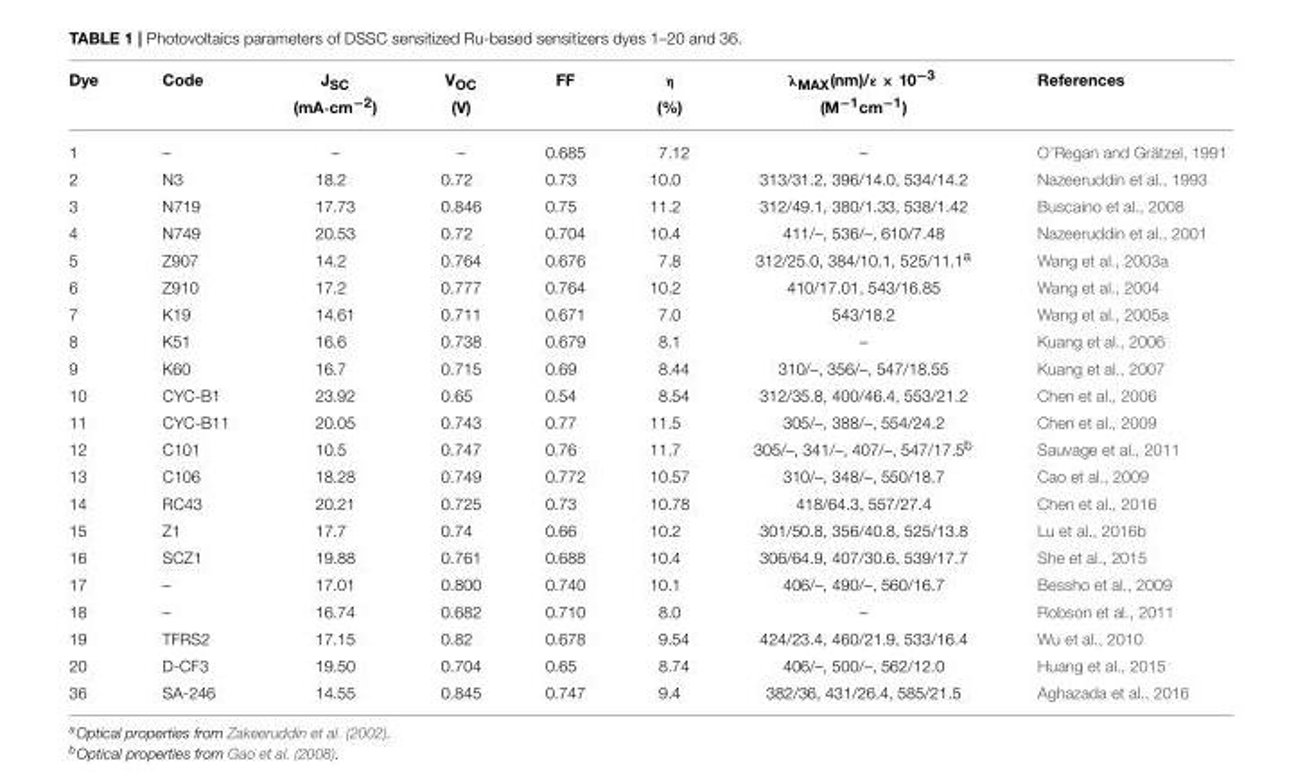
<table><thead><tr><td rowspan="2">Dye</td><td rowspan="2">Code</td><td rowspan="2">J<sub>SC</sub> (mA·cm<sup>−2</sup>)</td><td rowspan="2">V<sub>OC</sub> (V)</td><td rowspan="2">FF</td><td rowspan="2">η (%)</td><td rowspan="2">λ<sub>MAX</sub>(nm)/ε × 10<sup>−3</sup> (M<sup>−1</sup>cm<sup>−1</sup>)</td><td rowspan="2">References</td></tr><tr></tr></thead><tbody><tr><td>1</td><td>–</td><td>–</td><td>–</td><td>0.685</td><td>7.12</td><td>–</td><td>O’Regan and Grätzel, 1991</td></tr><tr><td>2</td><td>N3</td><td>18.2</td><td>0.72</td><td>0.73</td><td>10.0</td><td>313/31.2, 396/14.0, 534/14.2</td><td>Nazeeruddin et al., 1993</td></tr><tr><td>3</td><td>N719</td><td>17.73</td><td>0.846</td><td>0.75</td><td>11.2</td><td>312/49.1, 380/1.33, 538/1.42</td><td>Buscaino et al., 2008</td></tr><tr><td>4</td><td>N749</td><td>20.53</td><td>0.72</td><td>0.704</td><td>10.4</td><td>411/–, 536/–, 610/7.48</td><td>Nazeeruddin et al., 2001</td></tr><tr><td>5</td><td>Z907</td><td>14.2</td><td>0.764</td><td>0.676</td><td>7.8</td><td>312/25.0, 384/10.1, 525/11.1<sup>a</sup></td><td>Wang et al., 2003a</td></tr><tr><td>6</td><td>Z910</td><td>17.2</td><td>0.777</td><td>0.764</td><td>10.2</td><td>410/17.01, 543/16.85</td><td>Wang et al., 2004</td></tr><tr><td>7</td><td>K19</td><td>14.61</td><td>0.711</td><td>0.671</td><td>7.0</td><td>543/18.2</td><td>Wang et al., 2005a</td></tr><tr><td>8</td><td>K51</td><td>16.6</td><td>0.738</td><td>0.679</td><td>8.1</td><td>–</td><td>Kuang et al., 2006</td></tr><tr><td>9</td><td>K60</td><td>16.7</td><td>0.715</td><td>0.69</td><td>8.44</td><td>310/–, 356/–, 547/18.55</td><td>Kuang et al., 2007</td></tr><tr><td>10</td><td>CYC-B1</td><td>23.92</td><td>0.65</td><td>0.54</td><td>8.54</td><td>312/35.8, 400/46.4, 553/21.2</td><td>Chen et al., 2006</td></tr><tr><td>11</td><td>CYC-B11</td><td>20.05</td><td>0.743</td><td>0.77</td><td>11.5</td><td>305/–, 388/–, 554/24.2</td><td>Chen et al., 2009</td></tr><tr><td>12</td><td>C101</td><td>10.5</td><td>0.747</td><td>0.76</td><td>11.7</td><td>305/–, 341/–, 407/–, 547/17.5<sup>b</sup></td><td>Sauvage et al., 2011</td></tr><tr><td>13</td><td>C106</td><td>18.28</td><td>0.749</td><td>0.772</td><td>10.57</td><td>310/–, 348/–, 550/18.7</td><td>Cao et al., 2009</td></tr><tr><td>14</td><td>RC43</td><td>20.21</td><td>0.725</td><td>0.73</td><td>10.78</td><td>418/64.3, 557/27.4</td><td>Chen et al., 2016</td></tr><tr><td>15</td><td>Z1</td><td>17.7</td><td>0.74</td><td>0.66</td><td>10.2</td><td>301/50.8, 356/40.8, 525/13.8</td><td>Lu et al., 2016b</td></tr><tr><td>16</td><td>SCZ1</td><td>19.88</td><td>0.761</td><td>0.688</td><td>10.4</td><td>306/64.9, 407/30.6, 539/17.7</td><td>She et al., 2015</td></tr><tr><td>17</td><td>–</td><td>17.01</td><td>0.800</td><td>0.740</td><td>10.1</td><td>406/–, 490/–, 560/16.7</td><td>Bessho et al., 2009</td></tr><tr><td>18</td><td>–</td><td>16.74</td><td>0.682</td><td>0.710</td><td>8.0</td><td>–</td><td>Robson et al., 2011</td></tr><tr><td>19</td><td>TFRS2</td><td>17.15</td><td>0.82</td><td>0.678</td><td>9.54</td><td>424/23.4, 460/21.9, 533/16.4</td><td>Wu et al., 2010</td></tr><tr><td>20</td><td>D-CF3</td><td>19.50</td><td>0.704</td><td>0.65</td><td>8.74</td><td>406/–, 500/–, 562/12.0</td><td>Huang et al., 2015</td></tr><tr><td>36</td><td>SA-246</td><td>14.55</td><td>0.845</td><td>0.747</td><td>9.4</td><td>382/36, 431/26.4, 585/21.5</td><td>Aghazada et al., 2016</td></tr></tbody></table>